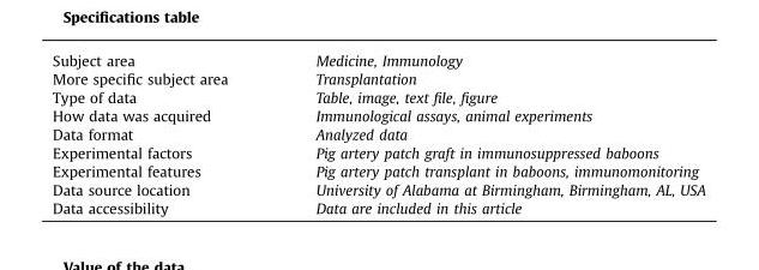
<table><tbody><tr><td>Subject area</td><td>Medicine, Immunology</td></tr><tr><td>More specific subject area</td><td>Transplantation</td></tr><tr><td>Type of data</td><td>Table, image, text file, figure</td></tr><tr><td>How data was acquired</td><td>Immunological assays, animal experiments</td></tr><tr><td>Data format</td><td>Analyzed data</td></tr><tr><td>Experimental factors</td><td>Pig artery patch graft in immunosuppressed baboons</td></tr><tr><td>Experimental features</td><td>Pig artery patch transplant in baboons, immunomonitoring</td></tr><tr><td>Data source location</td><td>University of Alabama at Birmingham, Birmingham, AL, USA</td></tr><tr><td>Data accessibility</td><td>Data are included in this article</td></tr></tbody></table>